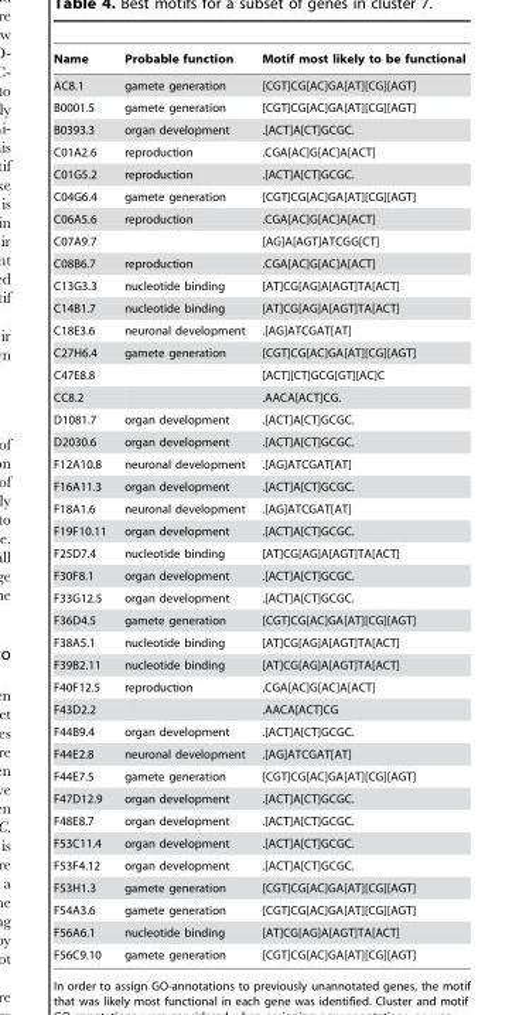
<table><thead><tr><td>Name</td><td>Probable function</td><td>Motif most likely to be functional</td></tr></thead><tbody><tr><td>AC8.1</td><td>gamete generation</td><td>[CGT]CG[AC]GA[AT][CG][AGT]</td></tr><tr><td>B0001.5</td><td>gamete generation</td><td>[CGT]CG[AC]GA[AT][CG][AGT]</td></tr><tr><td>B0393.3</td><td>organ development</td><td>.[ACT]A[CT]GCGC.</td></tr><tr><td>C01A2.6</td><td>reproduction</td><td>.CGA[AC]G[AC]A[ACT]</td></tr><tr><td>C01G5.2</td><td>reproduction</td><td>.[ACT]A[CT]GCGC.</td></tr><tr><td>C04G6.4</td><td>gamete generation</td><td>[CGT]CG[AC]GA[AT][CG][AGT]</td></tr><tr><td>C06A5.6</td><td>reproduction</td><td>.CGA[AC]G[AC]A[ACT]</td></tr><tr><td>C07A9.7</td><td></td><td>[AG]A[AGT]ATCGG[CT]</td></tr><tr><td>C08B6.7</td><td>reproduction</td><td>.CGA[AC]G[AC]A[ACT]</td></tr><tr><td>C13G3.3</td><td>nucleotide binding</td><td>[AT]CG[AG]A[AGT]TA[ACT]</td></tr><tr><td>C14B1.7</td><td>nucleotide binding</td><td>[AT]CG[AG]A[AGT]TA[ACT]</td></tr><tr><td>C18E3.6</td><td>neuronal development</td><td>.[AG]ATCGAT[AT]</td></tr><tr><td>C27H6.4</td><td>gamete generation</td><td>[CGT]CG[AC]GA[AT][CG][AGT]</td></tr><tr><td>C47E8.8</td><td></td><td>[ACT][CT]GCG[GT][AC]C</td></tr><tr><td>CC8.2</td><td></td><td>.AACA[ACT]CG.</td></tr><tr><td>D1081.7</td><td>organ development</td><td>.[ACT]A[CT]GCGC.</td></tr><tr><td>D2030.6</td><td>organ development</td><td>.[ACT]A[CT]GCGC.</td></tr><tr><td>F12A10.8</td><td>neuronal development</td><td>.[AG]ATCGAT[AT]</td></tr><tr><td>F16A11.3</td><td>organ development</td><td>.[ACT]A[CT]GCGC.</td></tr><tr><td>F18A1.6</td><td>neuronal development</td><td>.[AG]ATCGAT[AT]</td></tr><tr><td>F19F10.11</td><td>organ development</td><td>.[ACT]A[CT]GCGC.</td></tr><tr><td>F25D7.4</td><td>nucleotide binding</td><td>[AT]CG[AG]A[AGT]TA[ACT]</td></tr><tr><td>F30F8.1</td><td>organ development</td><td>.[ACT]A[CT]GCGC.</td></tr><tr><td>F33G12.5</td><td>organ development</td><td>.[ACT]A[CT]GCGC.</td></tr><tr><td>F36D4.5</td><td>gamete generation</td><td>[CGT]CG[AC]GA[AT][CG][AGT]</td></tr><tr><td>F38A5.1</td><td>nucleotide binding</td><td>[AT]CG[AG]A[AGT]TA[ACT]</td></tr><tr><td>F39B2.11</td><td>nucleotide binding</td><td>[AT]CG[AG]A[AGT]TA[ACT]</td></tr><tr><td>F40F12.5</td><td>reproduction</td><td>.CGA[AC]G[AC]A[ACT]</td></tr><tr><td>F43D2.2</td><td></td><td>.AACA[ACT]CG</td></tr><tr><td>F44B9.4</td><td>organ development</td><td>.[ACT]A[CT]GCGC.</td></tr><tr><td>F44E2.8</td><td>neuronal development</td><td>.[AG]ATCGAT[AT]</td></tr><tr><td>F44E7.5</td><td>gamete generation</td><td>[CGT]CG[AC]GA[AT][CG][AGT]</td></tr><tr><td>F47D12.9</td><td>organ development</td><td>.[ACT]A[CT]GCGC.</td></tr><tr><td>F48E8.7</td><td>organ development</td><td>.[ACT]A[CT]GCGC.</td></tr><tr><td>F53C11.4</td><td>organ development</td><td>.[ACT]A[CT]GCGC.</td></tr><tr><td>F53F4.12</td><td>organ development</td><td>.[ACT]A[CT]GCGC.</td></tr><tr><td>F53H1.3</td><td>gamete generation</td><td>[CGT]CG[AC]GA[AT][CG][AGT]</td></tr><tr><td>F54A3.6</td><td>gamete generation</td><td>[CGT]CG[AC]GA[AT][CG][AGT]</td></tr><tr><td>F56A6.1</td><td>nucleotide binding</td><td>[AT]CG[AG]A[AGT]TA[ACT]</td></tr><tr><td>F56C9.10</td><td>gamete generation</td><td>[CGT]CG[AC]GA[AT][CG][AGT]</td></tr></tbody></table>